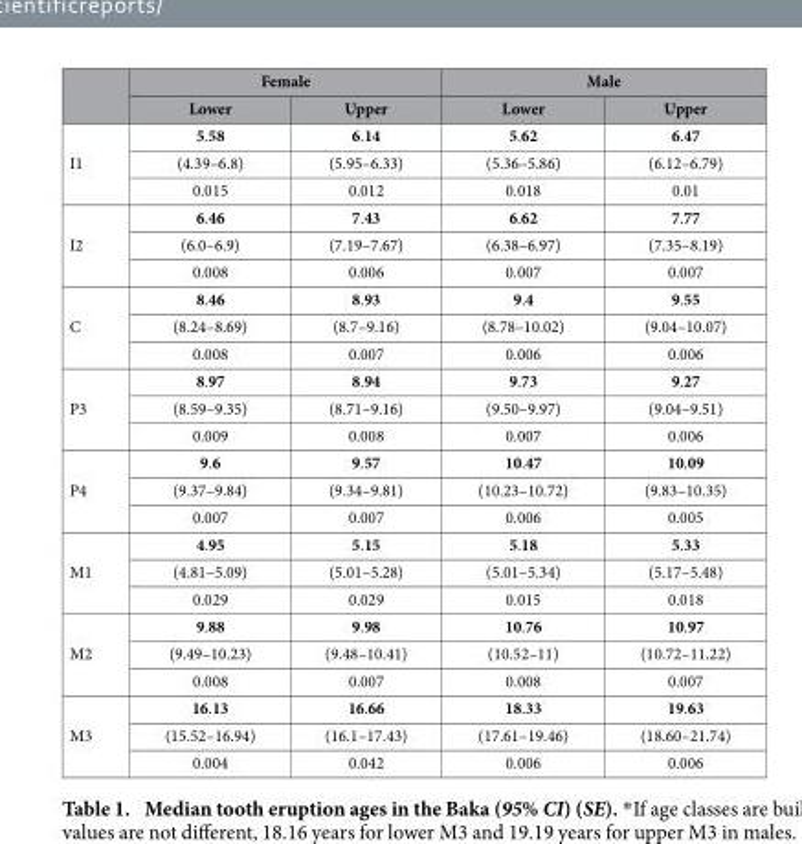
<table><thead><tr><td rowspan="2"></td><td colspan="2">Female</td><td colspan="2">Male</td></tr><tr><td>Lower</td><td>Upper</td><td>Lower</td><td>Upper</td></tr></thead><tbody><tr><td rowspan="3">I1</td><td>5.58</td><td>6.14</td><td>5.62</td><td>6.47</td></tr><tr><td>(4.39–6.8)</td><td>(5.95–6.33)</td><td>(5.36–5.86)</td><td>(6.12–6.79)</td></tr><tr><td>0.015</td><td>0.012</td><td>0.018</td><td>0.01</td></tr><tr><td rowspan="3">I2</td><td>6.46</td><td>7.43</td><td>6.62</td><td>7.77</td></tr><tr><td>(6.0–6.9)</td><td>(7.19–7.67)</td><td>(6.38–6.97)</td><td>(7.35–8.19)</td></tr><tr><td>0.008</td><td>0.006</td><td>0.007</td><td>0.007</td></tr><tr><td rowspan="3">C</td><td>8.46</td><td>8.93</td><td>9.4</td><td>9.55</td></tr><tr><td>(8.24–8.69)</td><td>(8.7–9.16)</td><td>(8.78–10.02)</td><td>(9.04–10.07)</td></tr><tr><td>0.008</td><td>0.007</td><td>0.006</td><td>0.006</td></tr><tr><td rowspan="3">P3</td><td>8.97</td><td>8.94</td><td>9.73</td><td>9.27</td></tr><tr><td>(8.59–9.35)</td><td>(8.71–9.16)</td><td>(9.50–9.97)</td><td>(9.04–9.51)</td></tr><tr><td>0.009</td><td>0.008</td><td>0.007</td><td>0.006</td></tr><tr><td rowspan="3">P4</td><td>9.6</td><td>9.57</td><td>10.47</td><td>10.09</td></tr><tr><td>(9.37–9.84)</td><td>(9.34–9.81)</td><td>(10.23–10.72)</td><td>(9.83–10.35)</td></tr><tr><td>0.007</td><td>0.007</td><td>0.006</td><td>0.005</td></tr><tr><td rowspan="3">M1</td><td>4.95</td><td>5.15</td><td>5.18</td><td>5.33</td></tr><tr><td>(4.81–5.09)</td><td>(5.01–5.28)</td><td>(5.01–5.34)</td><td>(5.17–5.48)</td></tr><tr><td>0.029</td><td>0.029</td><td>0.015</td><td>0.018</td></tr><tr><td rowspan="3">M2</td><td>9.88</td><td>9.98</td><td>10.76</td><td>10.97</td></tr><tr><td>(9.49–10.23)</td><td>(9.48–10.41)</td><td>(10.52–11)</td><td>(10.72–11.22)</td></tr><tr><td>0.008</td><td>0.007</td><td>0.008</td><td>0.007</td></tr><tr><td rowspan="3">M3</td><td>16.13</td><td>16.66</td><td>18.33</td><td>19.63</td></tr><tr><td>(15.52–16.94)</td><td>(16.1–17.43)</td><td>(17.61–19.46)</td><td>(18.60–21.74)</td></tr><tr><td>0.004</td><td>0.042</td><td>0.006</td><td>0.006</td></tr></tbody></table>